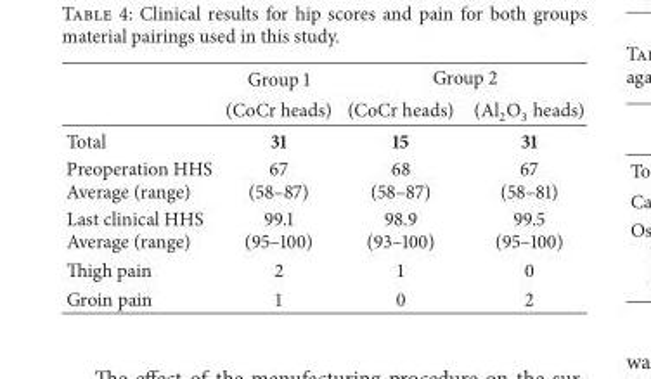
<table><thead><tr><td rowspan="2"></td><td rowspan="2">Group 1 (CoCr heads)</td><td colspan="2">Group 2</td></tr><tr><td>(CoCr heads)</td><td>(Al<sub>2</sub>O<sub>3</sub> heads)</td></tr></thead><tbody><tr><td>Total</td><td>31</td><td>15</td><td>31</td></tr><tr><td>Preoperation HHS Average (range)</td><td>67 (58–87)</td><td>68 (58–87)</td><td>67 (58–81)</td></tr><tr><td>Last clinical HHS Average (range)</td><td>99.1 (95–100)</td><td>98.9 (93–100)</td><td>99.5 (95–100)</td></tr><tr><td>Thigh pain</td><td>2</td><td>1</td><td>0</td></tr><tr><td>Groin pain</td><td>1</td><td>0</td><td>2</td></tr></tbody></table>